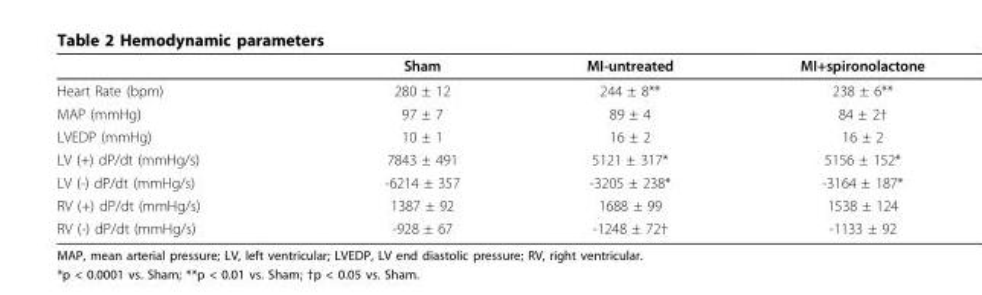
<table><thead><tr><td></td><td>Sham</td><td>MI-untreated</td><td>MI+spironolactone</td></tr></thead><tbody><tr><td>Heart Rate (bpm)</td><td>280 ± 12</td><td>244 ± 8**</td><td>238 ± 6**</td></tr><tr><td>MAP (mmHg)</td><td>97 ± 7</td><td>89 ± 4</td><td>84 ± 2†</td></tr><tr><td>LVEDP (mmHg)</td><td>10 ± 1</td><td>16 ± 2</td><td>16 ± 2</td></tr><tr><td>LV (+) dP/dt (mmHg/s)</td><td>7843 ± 491</td><td>5121 ± 317*</td><td>5156 ± 152*</td></tr><tr><td>LV (-) dP/dt (mmHg/s)</td><td>-6214 ± 357</td><td>-3205 ± 238*</td><td>-3164 ± 187*</td></tr><tr><td>RV (+) dP/dt (mmHg/s)</td><td>1387 ± 92</td><td>1688 ± 99</td><td>1538 ± 124</td></tr><tr><td>RV (-) dP/dt (mmHg/s)</td><td>-928 ± 67</td><td>-1248 ± 72†</td><td>-1133 ± 92</td></tr></tbody></table>